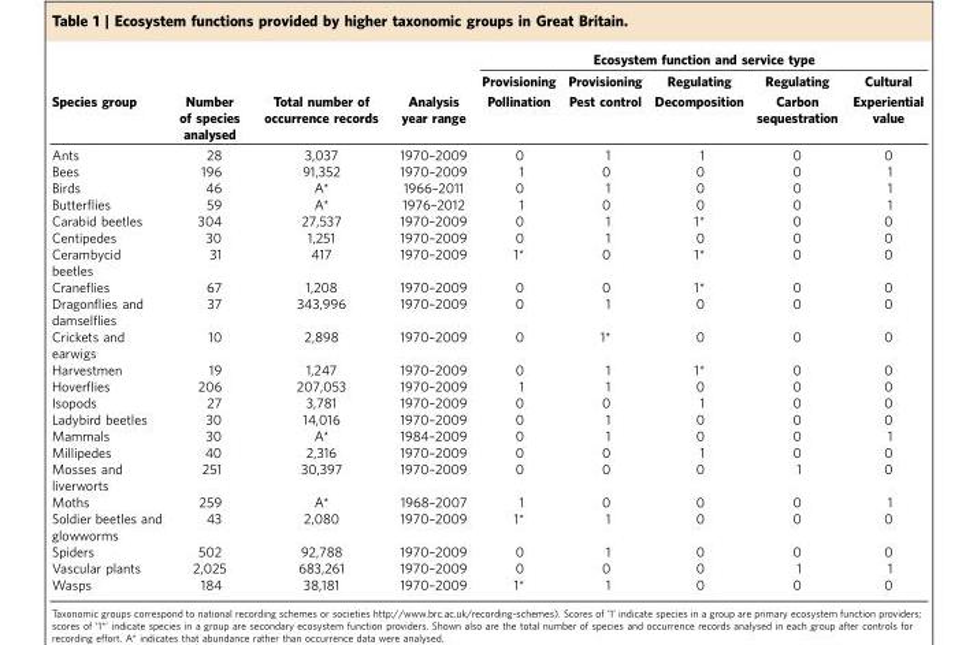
<table><thead><tr><td rowspan="3">Species group</td><td rowspan="3">Number of species analysed</td><td rowspan="3">Total number of occurrence records</td><td rowspan="3">Analysis year range</td><td colspan="5">Ecosystem function and service type</td></tr><tr><td rowspan="2">Provisioning Pollination</td><td rowspan="2">Provisioning Pest control</td><td rowspan="2">Regulating Decomposition</td><td rowspan="2">Regulating Carbon sequestration</td><td rowspan="2">Cultural Experiential value</td></tr><tr></tr></thead><tbody><tr><td>Ants</td><td>28</td><td>3,037</td><td>1970–2009</td><td>0</td><td>1</td><td>1</td><td>0</td><td>0</td></tr><tr><td>Bees</td><td>196</td><td>91,352</td><td>1970–2009</td><td>1</td><td>0</td><td>0</td><td>0</td><td>1</td></tr><tr><td>Birds</td><td>46</td><td>A*</td><td>1966–2011</td><td>0</td><td>1</td><td>0</td><td>0</td><td>1</td></tr><tr><td>Butterflies</td><td>59</td><td>A*</td><td>1976–2012</td><td>1</td><td>0</td><td>0</td><td>0</td><td>1</td></tr><tr><td>Carabid beetles</td><td>304</td><td>27,537</td><td>1970–2009</td><td>0</td><td>1</td><td>1*</td><td>0</td><td>0</td></tr><tr><td>Centipedes</td><td>30</td><td>1,251</td><td>1970–2009</td><td>0</td><td>1</td><td>0</td><td>0</td><td>0</td></tr><tr><td>Cerambycid beetles</td><td>31</td><td>417</td><td>1970–2009</td><td>1*</td><td>0</td><td>1*</td><td>0</td><td>0</td></tr><tr><td>Craneflies</td><td>67</td><td>1,208</td><td>1970–2009</td><td>0</td><td>0</td><td>1*</td><td>0</td><td>0</td></tr><tr><td>Dragonflies and damselflies</td><td>37</td><td>343,996</td><td>1970–2009</td><td>0</td><td>1</td><td>0</td><td>0</td><td>0</td></tr><tr><td>Crickets and earwigs</td><td>10</td><td>2,898</td><td>1970–2009</td><td>0</td><td>1*</td><td>0</td><td>0</td><td>0</td></tr><tr><td>Harvestmen</td><td>19</td><td>1,247</td><td>1970–2009</td><td>0</td><td>1</td><td>1*</td><td>0</td><td>0</td></tr><tr><td>Hoverflies</td><td>206</td><td>207,053</td><td>1970–2009</td><td>1</td><td>1</td><td>0</td><td>0</td><td>0</td></tr><tr><td>Isopods</td><td>27</td><td>3,781</td><td>1970–2009</td><td>0</td><td>0</td><td>1</td><td>0</td><td>0</td></tr><tr><td>Ladybird beetles</td><td>30</td><td>14,016</td><td>1970–2009</td><td>0</td><td>1</td><td>0</td><td>0</td><td>0</td></tr><tr><td>Mammals</td><td>30</td><td>A*</td><td>1984–2009</td><td>0</td><td>1</td><td>0</td><td>0</td><td>1</td></tr><tr><td>Millipedes</td><td>40</td><td>2,316</td><td>1970–2009</td><td>0</td><td>0</td><td>1</td><td>0</td><td>0</td></tr><tr><td>Mosses and liverworts</td><td>251</td><td>30,397</td><td>1970–2009</td><td>0</td><td>0</td><td>0</td><td>1</td><td>0</td></tr><tr><td>Moths</td><td>259</td><td>A*</td><td>1968–2007</td><td>1</td><td>0</td><td>0</td><td>0</td><td>1</td></tr><tr><td>Soldier beetles and glowworms</td><td>43</td><td>2,080</td><td>1970–2009</td><td>1*</td><td>1</td><td>0</td><td>0</td><td>0</td></tr><tr><td>Spiders</td><td>502</td><td>92,788</td><td>1970–2009</td><td>0</td><td>1</td><td>0</td><td>0</td><td>0</td></tr><tr><td>Vascular plants</td><td>2,025</td><td>683,261</td><td>1970–2009</td><td>0</td><td>0</td><td>0</td><td>1</td><td>1</td></tr><tr><td>Wasps</td><td>184</td><td>38,181</td><td>1970–2009</td><td>1*</td><td>1</td><td>0</td><td>0</td><td>0</td></tr></tbody></table>